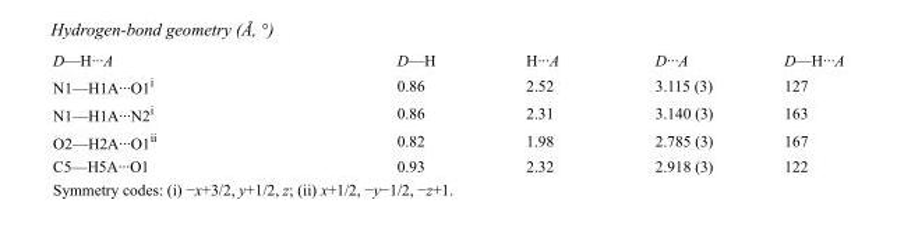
<table><tbody><tr><td>D—H···A</td><td>D—H</td><td>H···A</td><td>D···A</td><td>D—H···A</td></tr><tr><td>N1—H1A···O1<sup>i</sup></td><td>0.86</td><td>2.52</td><td>3.115 (3)</td><td>127</td></tr><tr><td>N1—H1A···N2<sup>i</sup></td><td>0.86</td><td>2.31</td><td>3.140 (3)</td><td>163</td></tr><tr><td>O2—H2A···O1<sup>ii</sup></td><td>0.82</td><td>1.98</td><td>2.785 (3)</td><td>167</td></tr><tr><td>C5—H5A···O1</td><td>0.93</td><td>2.32</td><td>2.918 (3)</td><td>122</td></tr></tbody></table>